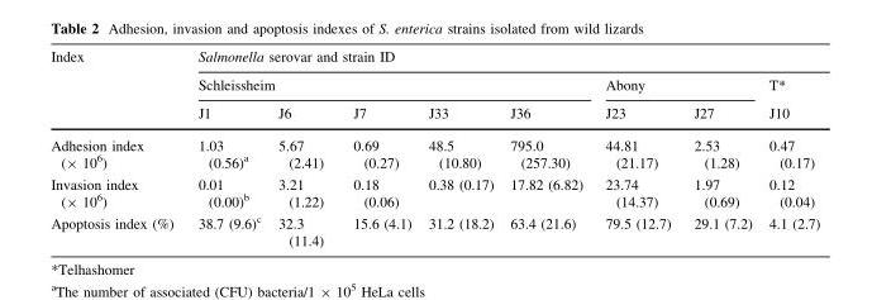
<table><thead><tr><td rowspan="3">Index</td><td colspan="8">Salmonella serovar and strain ID</td></tr><tr><td colspan="5">Schleissheim</td><td colspan="2">Abony</td><td rowspan="2">T* J10</td></tr><tr><td>J1</td><td>J6</td><td>J7</td><td>J33</td><td>J36</td><td>J23</td><td>J27</td></tr></thead><tbody><tr><td>Adhesion index (× 10<sup>6</sup>)</td><td>1.03 (0.56)<sup>a</sup></td><td>5.67 (2.41)</td><td>0.69 (0.27)</td><td>48.5 (10.80)</td><td>795.0 (257.30)</td><td>44.81 (21.17)</td><td>2.53 (1.28)</td><td>0.47 (0.17)</td></tr><tr><td>Invasion index (× 10<sup>6</sup>)</td><td>0.01 (0.00)<sup>b</sup></td><td>3.21 (1.22)</td><td>0.18 (0.06)</td><td>0.38 (0.17)</td><td>17.82 (6.82)</td><td>23.74 (14.37)</td><td>1.97 (0.69)</td><td>0.12 (0.04)</td></tr><tr><td>Apoptosis index (%)</td><td>38.7 (9.6)<sup>c</sup></td><td>32.3 (11.4)</td><td>15.6 (4.1)</td><td>31.2 (18.2)</td><td>63.4 (21.6)</td><td>79.5 (12.7)</td><td>29.1 (7.2)</td><td>4.1 (2.7)</td></tr></tbody></table>